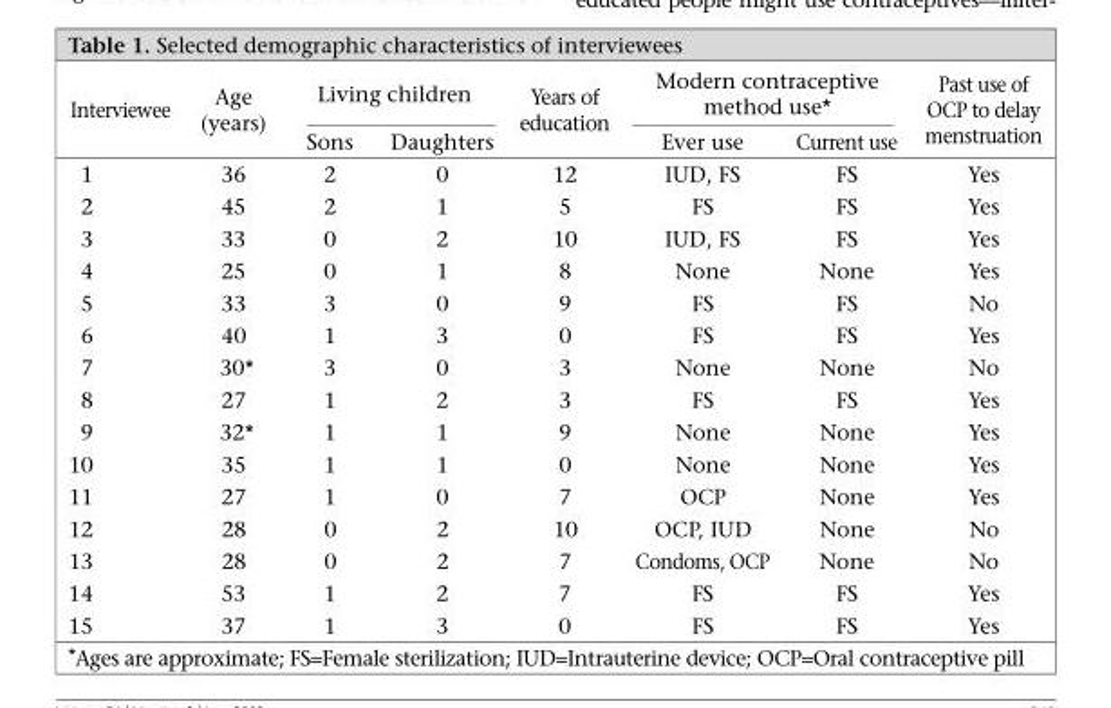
<table><thead><tr><td rowspan="2">Interviewee</td><td rowspan="2">Age (years)</td><td colspan="2">Living children</td><td rowspan="2">Years of education</td><td colspan="2">Modern contraceptive method use*</td><td rowspan="2">Past use of OCP to delay menstruation</td></tr><tr><td>Sons</td><td>Daughters</td><td>Ever use</td><td>Current use</td></tr></thead><tbody><tr><td>1</td><td>36</td><td>2</td><td>0</td><td>12</td><td>IUD, FS</td><td>FS</td><td>Yes</td></tr><tr><td>2</td><td>45</td><td>2</td><td>1</td><td>5</td><td>FS</td><td>FS</td><td>Yes</td></tr><tr><td>3</td><td>33</td><td>0</td><td>2</td><td>10</td><td>IUD, FS</td><td>FS</td><td>Yes</td></tr><tr><td>4</td><td>25</td><td>0</td><td>1</td><td>8</td><td>None</td><td>None</td><td>Yes</td></tr><tr><td>5</td><td>33</td><td>3</td><td>0</td><td>9</td><td>FS</td><td>FS</td><td>No</td></tr><tr><td>6</td><td>40</td><td>1</td><td>3</td><td>0</td><td>FS</td><td>FS</td><td>Yes</td></tr><tr><td>7</td><td>30*</td><td>3</td><td>0</td><td>3</td><td>None</td><td>None</td><td>No</td></tr><tr><td>8</td><td>27</td><td>1</td><td>2</td><td>3</td><td>FS</td><td>FS</td><td>Yes</td></tr><tr><td>9</td><td>32*</td><td>1</td><td>1</td><td>9</td><td>None</td><td>None</td><td>Yes</td></tr><tr><td>10</td><td>35</td><td>1</td><td>1</td><td>0</td><td>None</td><td>None</td><td>Yes</td></tr><tr><td>11</td><td>27</td><td>1</td><td>0</td><td>7</td><td>OCP</td><td>None</td><td>Yes</td></tr><tr><td>12</td><td>28</td><td>0</td><td>2</td><td>10</td><td>OCP, IUD</td><td>None</td><td>No</td></tr><tr><td>13</td><td>28</td><td>0</td><td>2</td><td>7</td><td>Condoms, OCP</td><td>None</td><td>No</td></tr><tr><td>14</td><td>53</td><td>1</td><td>2</td><td>7</td><td>FS</td><td>FS</td><td>Yes</td></tr><tr><td>15</td><td>37</td><td>1</td><td>3</td><td>0</td><td>FS</td><td>FS</td><td>Yes</td></tr></tbody></table>